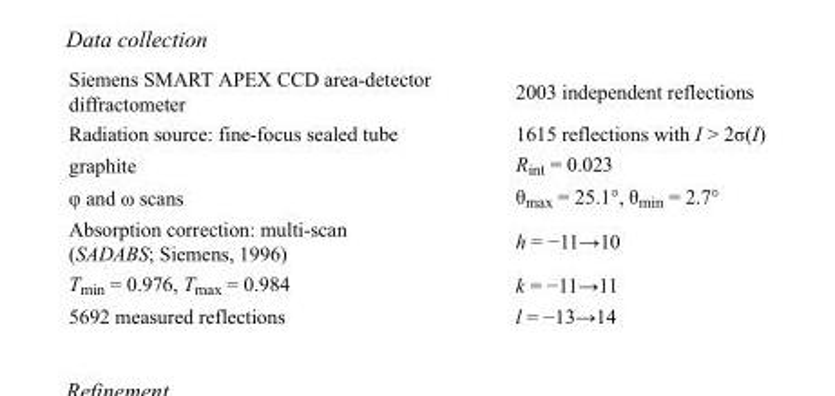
<table><tbody><tr><td>Siemens SMART APEX CCD area-detector diffractometer</td><td>2003 independent reflections</td></tr><tr><td>Radiation source: fine-focus sealed tube</td><td>1615 reflections with I &gt; 2σ(I)</td></tr><tr><td>graphite</td><td>R<sub>int</sub> = 0.023</td></tr><tr><td>φ and ω scans</td><td>θ<sub>max</sub> = 25.1°, θ<sub>min</sub> = 2.7°</td></tr><tr><td>Absorption correction: multi-scan (SADABS; Siemens, 1996)</td><td>h = −11→10</td></tr><tr><td>T<sub>min</sub> = 0.976, T<sub>max</sub> = 0.984</td><td>k = −11→11</td></tr><tr><td>5692 measured reflections</td><td>l = −13→14</td></tr></tbody></table>